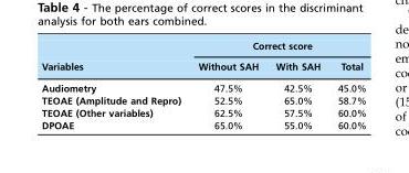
<table><thead><tr><td rowspan="2">Variables</td><td colspan="3">Correct score</td></tr><tr><td>Without SAH</td><td>With SAH</td><td>Total</td></tr></thead><tbody><tr><td>Audiometry</td><td>47.5%</td><td>42.5%</td><td>45.0%</td></tr><tr><td>TEOAE (Amplitude and Repro)</td><td>52.5%</td><td>65.0%</td><td>58.7%</td></tr><tr><td>TEOAE (Other variables)</td><td>62.5%</td><td>57.5%</td><td>60.0%</td></tr><tr><td>DPOAE</td><td>65.0%</td><td>55.0%</td><td>60.0%</td></tr></tbody></table>